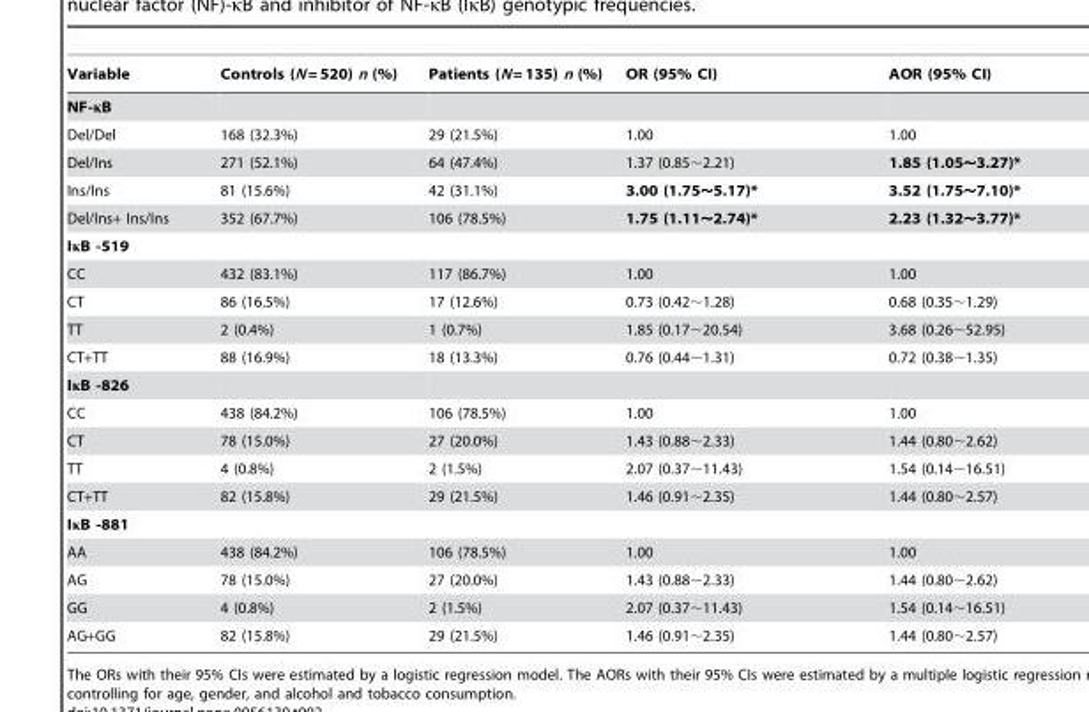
<table><thead><tr><td>Variable</td><td>Controls (N = 520) n (%)</td><td>Patients (N = 135) n (%)</td><td>OR (95% CI)</td><td>AOR (95% CI)</td></tr></thead><tbody><tr><td colspan="5">NF-κB</td></tr><tr><td>Del/Del</td><td>168 (32.3%)</td><td>29 (21.5%)</td><td>1.00</td><td>1.00</td></tr><tr><td>Del/Ins</td><td>271 (52.1%)</td><td>64 (47.4%)</td><td>1.37 (0.85∼2.21)</td><td>1.85 (1.05∼3.27)*</td></tr><tr><td>Ins/Ins</td><td>81 (15.6%)</td><td>42 (31.1%)</td><td>3.00 (1.75∼5.17)*</td><td>3.52 (1.75∼7.10)*</td></tr><tr><td>Del/Ins+ Ins/Ins</td><td>352 (67.7%)</td><td>106 (78.5%)</td><td>1.75 (1.11∼2.74)*</td><td>2.23 (1.32∼3.77)*</td></tr><tr><td colspan="5">IκB -519</td></tr><tr><td>CC</td><td>432 (83.1%)</td><td>117 (86.7%)</td><td>1.00</td><td>1.00</td></tr><tr><td>CT</td><td>86 (16.5%)</td><td>17 (12.6%)</td><td>0.73 (0.42∼1.28)</td><td>0.68 (0.35∼1.29)</td></tr><tr><td>TT</td><td>2 (0.4%)</td><td>1 (0.7%)</td><td>1.85 (0.17∼20.54)</td><td>3.68 (0.26∼52.95)</td></tr><tr><td>CT+TT</td><td>88 (16.9%)</td><td>18 (13.3%)</td><td>0.76 (0.44∼1.31)</td><td>0.72 (0.38∼1.35)</td></tr><tr><td colspan="5">IκB -826</td></tr><tr><td>CC</td><td>438 (84.2%)</td><td>106 (78.5%)</td><td>1.00</td><td>1.00</td></tr><tr><td>CT</td><td>78 (15.0%)</td><td>27 (20.0%)</td><td>1.43 (0.88∼2.33)</td><td>1.44 (0.80∼2.62)</td></tr><tr><td>TT</td><td>4 (0.8%)</td><td>2 (1.5%)</td><td>2.07 (0.37∼11.43)</td><td>1.54 (0.14∼16.51)</td></tr><tr><td>CT+TT</td><td>82 (15.8%)</td><td>29 (21.5%)</td><td>1.46 (0.91∼2.35)</td><td>1.44 (0.80∼2.57)</td></tr><tr><td colspan="5">IκB -881</td></tr><tr><td>AA</td><td>438 (84.2%)</td><td>106 (78.5%)</td><td>1.00</td><td>1.00</td></tr><tr><td>AG</td><td>78 (15.0%)</td><td>27 (20.0%)</td><td>1.43 (0.88∼2.33)</td><td>1.44 (0.80∼2.62)</td></tr><tr><td>GG</td><td>4 (0.8%)</td><td>2 (1.5%)</td><td>2.07 (0.37∼11.43)</td><td>1.54 (0.14∼16.51)</td></tr><tr><td>AG+GG</td><td>82 (15.8%)</td><td>29 (21.5%)</td><td>1.46 (0.91∼2.35)</td><td>1.44 (0.80∼2.57)</td></tr></tbody></table>